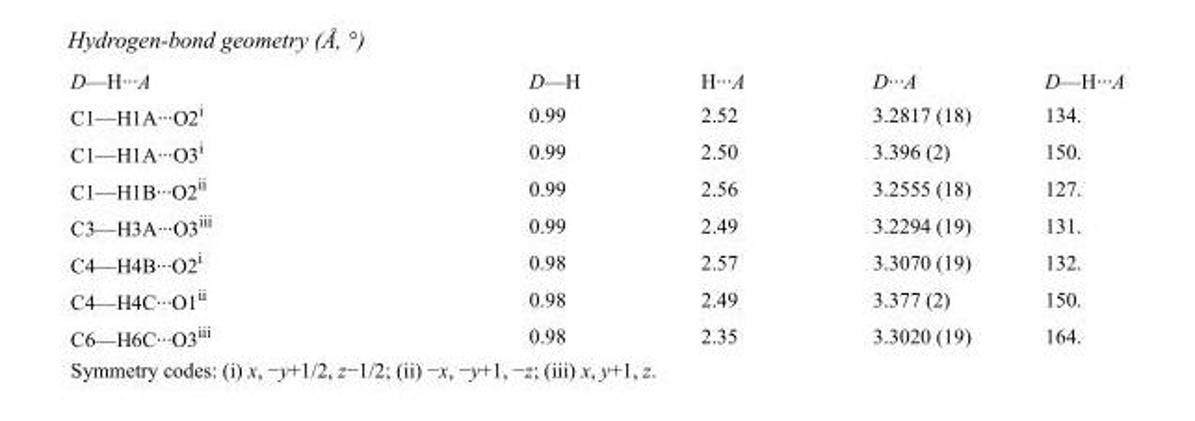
<table><tbody><tr><td>D—H···A</td><td>D—H</td><td>H···A</td><td>D···A</td><td>D—H···A</td></tr><tr><td>C1—H1A···O2<sup>i</sup></td><td>0.99</td><td>2.52</td><td>3.2817 (18)</td><td>134.</td></tr><tr><td>C1—H1A···O3<sup>i</sup></td><td>0.99</td><td>2.50</td><td>3.396 (2)</td><td>150.</td></tr><tr><td>C1—H1B···O2<sup>ii</sup></td><td>0.99</td><td>2.56</td><td>3.2555 (18)</td><td>127.</td></tr><tr><td>C3—H3A···O3<sup>iii</sup></td><td>0.99</td><td>2.49</td><td>3.2294 (19)</td><td>131.</td></tr><tr><td>C4—H4B···O2<sup>i</sup></td><td>0.98</td><td>2.57</td><td>3.3070 (19)</td><td>132.</td></tr><tr><td>C4—H4C···O1<sup>ii</sup></td><td>0.98</td><td>2.49</td><td>3.377 (2)</td><td>150.</td></tr><tr><td>C6—H6C···O3<sup>iii</sup></td><td>0.98</td><td>2.35</td><td>3.3020 (19)</td><td>164.</td></tr></tbody></table>